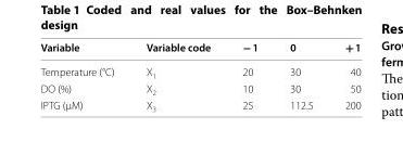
<table><thead><tr><td>Variable</td><td>Variable code</td><td>− 1</td><td>0</td><td>+ 1</td></tr></thead><tbody><tr><td>Temperature (°C)</td><td>X<sub>1</sub></td><td>20</td><td>30</td><td>40</td></tr><tr><td>DO (%)</td><td>X<sub>2</sub></td><td>10</td><td>30</td><td>50</td></tr><tr><td>IPTG (μM)</td><td>X<sub>3</sub></td><td>25</td><td>112.5</td><td>200</td></tr></tbody></table>